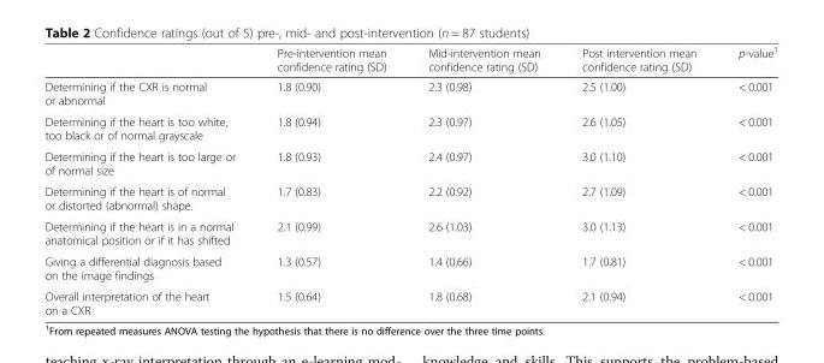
<table><thead><tr><td></td><td>Pre-intervention mean confidence rating (SD)</td><td>Mid-intervention mean confidence rating (SD)</td><td>Post intervention mean confidence rating (SD)</td><td>p-value<sup>1</sup></td></tr></thead><tbody><tr><td>Determining if the CXR is normal or abnormal</td><td>1.8 (0.90)</td><td>2.3 (0.98)</td><td>2.5 (1.00)</td><td>&lt; 0.001</td></tr><tr><td>Determining if the heart is too white, too black or of normal grayscale</td><td>1.8 (0.94)</td><td>2.3 (0.97)</td><td>2.6 (1.05)</td><td>&lt; 0.001</td></tr><tr><td>Determining if the heart is too large or of normal size</td><td>1.8 (0.93)</td><td>2.4 (0.97)</td><td>3.0 (1.10)</td><td>&lt; 0.001</td></tr><tr><td>Determining if the heart is of normal or distorted (abnormal) shape.</td><td>1.7 (0.83)</td><td>2.2 (0.92)</td><td>2.7 (1.09)</td><td>&lt; 0.001</td></tr><tr><td>Determining if the heart is in a normal anatomical position or if it has shifted</td><td>2.1 (0.99)</td><td>2.6 (1.03)</td><td>3.0 (1.13)</td><td>&lt; 0.001</td></tr><tr><td>Giving a differential diagnosis based on the image findings</td><td>1.3 (0.57)</td><td>1.4 (0.66)</td><td>1.7 (0.81)</td><td>&lt; 0.001</td></tr><tr><td>Overall interpretation of the heart on a CXR</td><td>1.5 (0.64)</td><td>1.8 (0.68)</td><td>2.1 (0.94)</td><td>&lt; 0.001</td></tr></tbody></table>